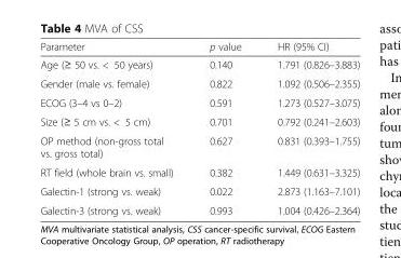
<table><thead><tr><td>Parameter</td><td>p value</td><td>HR (95% CI)</td></tr></thead><tbody><tr><td>Age (≥ 50 vs. &lt; 50 years)</td><td>0.140</td><td>1.791 (0.826–3.883)</td></tr><tr><td>Gender (male vs. female)</td><td>0.822</td><td>1.092 (0.506–2.355)</td></tr><tr><td>ECOG (3–4 vs 0–2)</td><td>0.591</td><td>1.273 (0.527–3.075)</td></tr><tr><td>Size (≥ 5 cm vs. &lt; 5 cm)</td><td>0.701</td><td>0.792 (0.241–2.603)</td></tr><tr><td>OP method (non-gross total vs. gross total)</td><td>0.627</td><td>0.831 (0.393–1.755)</td></tr><tr><td>RT field (whole brain vs. small)</td><td>0.382</td><td>1.449 (0.631–3.325)</td></tr><tr><td>Galectin-1 (strong vs. weak)</td><td>0.022</td><td>2.873 (1.163–7.101)</td></tr><tr><td>Galectin-3 (strong vs. weak)</td><td>0.993</td><td>1.004 (0.426–2.364)</td></tr></tbody></table>